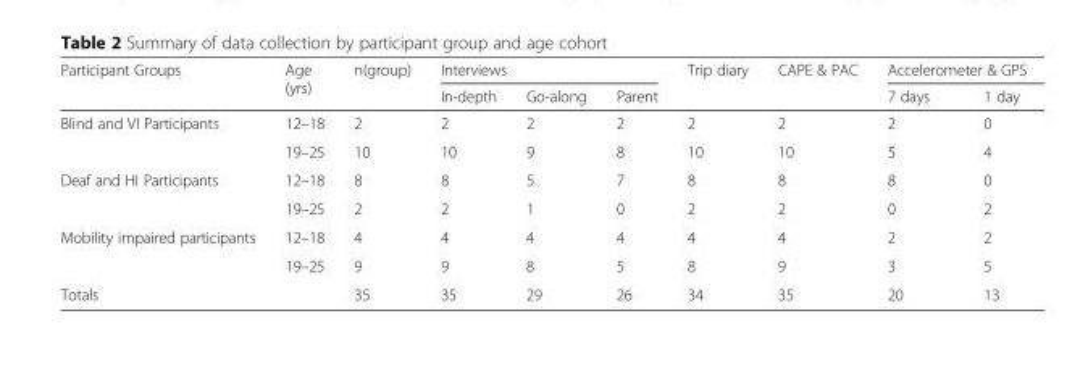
<table><thead><tr><td rowspan="2">Participant Groups</td><td rowspan="2">Age (yrs)</td><td rowspan="2">n(group)</td><td colspan="3">Interviews</td><td rowspan="2">Trip diary</td><td rowspan="2">CAPE &amp; PAC</td><td colspan="2">Accelerometer &amp; GPS</td></tr><tr><td>In-depth</td><td>Go-along</td><td>Parent</td><td>7 days</td><td>1 day</td></tr></thead><tbody><tr><td rowspan="2">Blind and VI Participants</td><td>12–18</td><td>2</td><td>2</td><td>2</td><td>2</td><td>2</td><td>2</td><td>2</td><td>0</td></tr><tr><td>19–25</td><td>10</td><td>10</td><td>9</td><td>8</td><td>10</td><td>10</td><td>5</td><td>4</td></tr><tr><td rowspan="2">Deaf and HI Participants</td><td>12–18</td><td>8</td><td>8</td><td>5</td><td>7</td><td>8</td><td>8</td><td>8</td><td>0</td></tr><tr><td>19–25</td><td>2</td><td>2</td><td>1</td><td>0</td><td>2</td><td>2</td><td>0</td><td>2</td></tr><tr><td rowspan="2">Mobility impaired participants</td><td>12–18</td><td>4</td><td>4</td><td>4</td><td>4</td><td>4</td><td>4</td><td>2</td><td>2</td></tr><tr><td>19–25</td><td>9</td><td>9</td><td>8</td><td>5</td><td>8</td><td>9</td><td>3</td><td>5</td></tr><tr><td>Totals</td><td></td><td>35</td><td>35</td><td>29</td><td>26</td><td>34</td><td>35</td><td>20</td><td>13</td></tr></tbody></table>